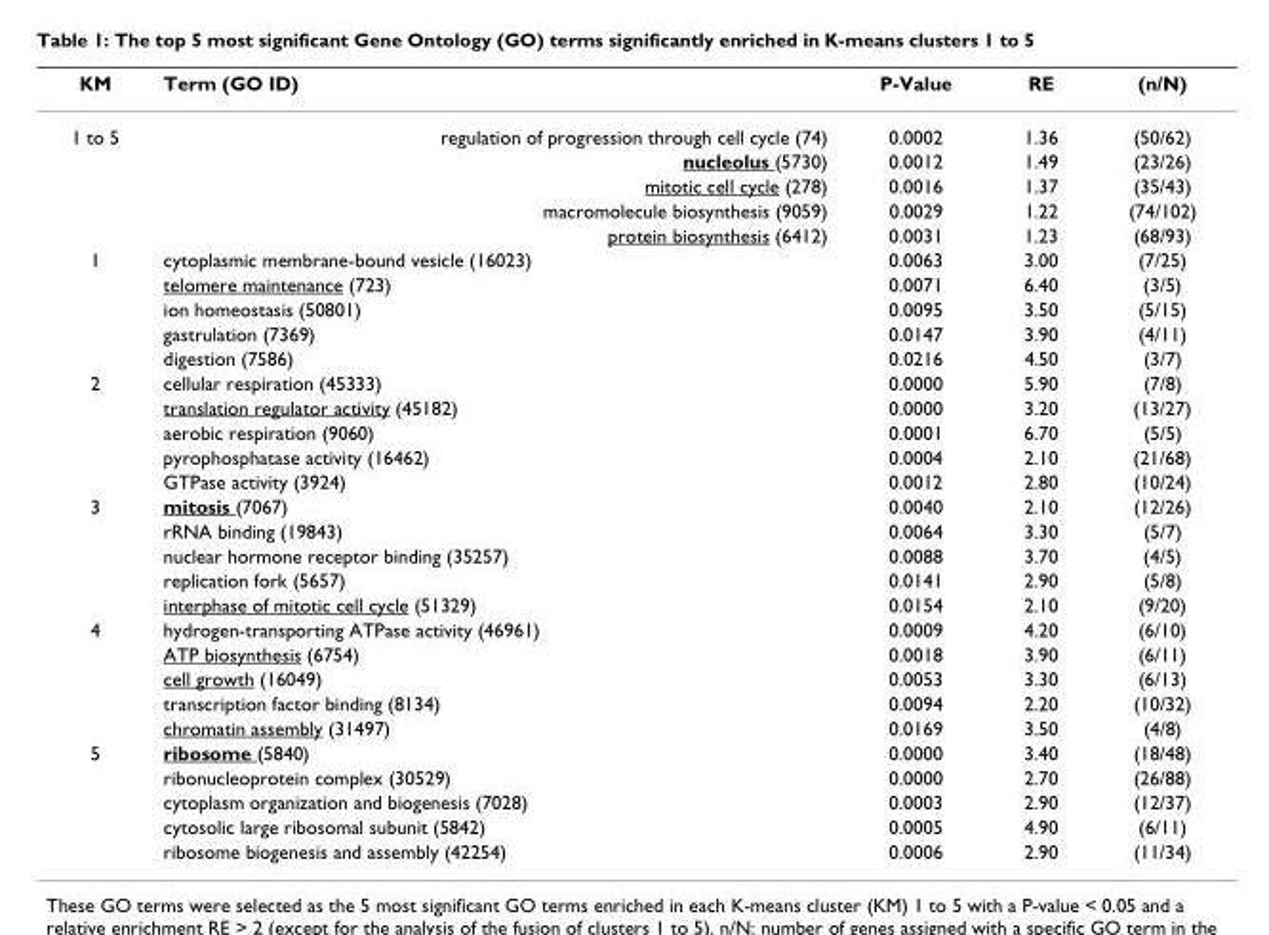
<table><thead><tr><td>KM</td><td>Term (GO ID)</td><td>P-Value</td><td>RE</td><td>(n/N)</td></tr></thead><tbody><tr><td rowspan="5">1 to 5</td><td>regulation of progression through cell cycle (74)</td><td>0.0002</td><td>1.36</td><td>(50/62)</td></tr><tr><td>nucleolus (5730)</td><td>0.0012</td><td>1.49</td><td>(23/26)</td></tr><tr><td>mitotic cell cycle (278)</td><td>0.0016</td><td>1.37</td><td>(35/43)</td></tr><tr><td>macromolecule biosynthesis (9059)</td><td>0.0029</td><td>1.22</td><td>(74/102)</td></tr><tr><td>protein biosynthesis (6412)</td><td>0.0031</td><td>1.23</td><td>(68/93)</td></tr><tr><td rowspan="5">1</td><td>cytoplasmic membrane-bound vesicle (16023)</td><td>0.0063</td><td>3.00</td><td>(7/25)</td></tr><tr><td>telomere maintenance (723)</td><td>0.0071</td><td>6.40</td><td>(3/5)</td></tr><tr><td>ion homeostasis (50801)</td><td>0.0095</td><td>3.50</td><td>(5/15)</td></tr><tr><td>gastrulation (7369)</td><td>0.0147</td><td>3.90</td><td>(4/11)</td></tr><tr><td>digestion (7586)</td><td>0.0216</td><td>4.50</td><td>(3/7)</td></tr><tr><td rowspan="5">2</td><td>cellular respiration (45333)</td><td>0.0000</td><td>5.90</td><td>(7/8)</td></tr><tr><td>translation regulator activity (45182)</td><td>0.0000</td><td>3.20</td><td>(13/27)</td></tr><tr><td>aerobic respiration (9060)</td><td>0.0001</td><td>6.70</td><td>(5/5)</td></tr><tr><td>pyrophosphatase activity (16462)</td><td>0.0004</td><td>2.10</td><td>(21/68)</td></tr><tr><td>GTPase activity (3924)</td><td>0.0012</td><td>2.80</td><td>(10/24)</td></tr><tr><td rowspan="5">3</td><td>mitosis (7067)</td><td>0.0040</td><td>2.10</td><td>(12/26)</td></tr><tr><td>rRNA binding (19843)</td><td>0.0064</td><td>3.30</td><td>(5/7)</td></tr><tr><td>nuclear hormone receptor binding (35257)</td><td>0.0088</td><td>3.70</td><td>(4/5)</td></tr><tr><td>replication fork (5657)</td><td>0.0141</td><td>2.90</td><td>(5/8)</td></tr><tr><td>interphase of mitotic cell cycle (51329)</td><td>0.0154</td><td>2.10</td><td>(9/20)</td></tr><tr><td rowspan="5">4</td><td>hydrogen-transporting ATPase activity (46961)</td><td>0.0009</td><td>4.20</td><td>(6/10)</td></tr><tr><td>ATP biosynthesis (6754)</td><td>0.0018</td><td>3.90</td><td>(6/11)</td></tr><tr><td>cell growth (16049)</td><td>0.0053</td><td>3.30</td><td>(6/13)</td></tr><tr><td>transcription factor binding (8134)</td><td>0.0094</td><td>2.20</td><td>(10/32)</td></tr><tr><td>chromatin assembly (31497)</td><td>0.0169</td><td>3.50</td><td>(4/8)</td></tr><tr><td rowspan="5">5</td><td>ribosome (5840)</td><td>0.0000</td><td>3.40</td><td>(18/48)</td></tr><tr><td>ribonucleoprotein complex (30529)</td><td>0.0000</td><td>2.70</td><td>(26/88)</td></tr><tr><td>cytoplasm organization and biogenesis (7028)</td><td>0.0003</td><td>2.90</td><td>(12/37)</td></tr><tr><td>cytosolic large ribosomal subunit (5842)</td><td>0.0005</td><td>4.90</td><td>(6/11)</td></tr><tr><td>ribosome biogenesis and assembly (42254)</td><td>0.0006</td><td>2.90</td><td>(11/34)</td></tr></tbody></table>